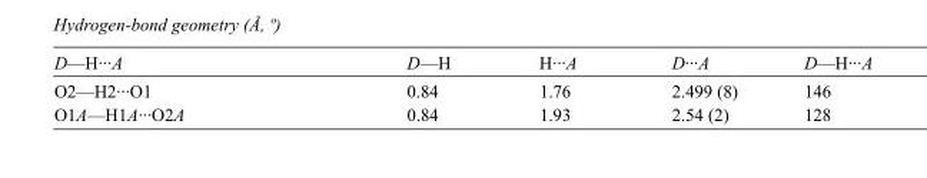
<table><tbody><tr><td>D—H···A</td><td>D—H</td><td>H···A</td><td>D···A</td><td>D—H···A</td></tr><tr><td>O2—H2···O1</td><td>0.84</td><td>1.76</td><td>2.499 (8)</td><td>146</td></tr><tr><td>O1A—H1A···O2A</td><td>0.84</td><td>1.93</td><td>2.54 (2)</td><td>128</td></tr></tbody></table>